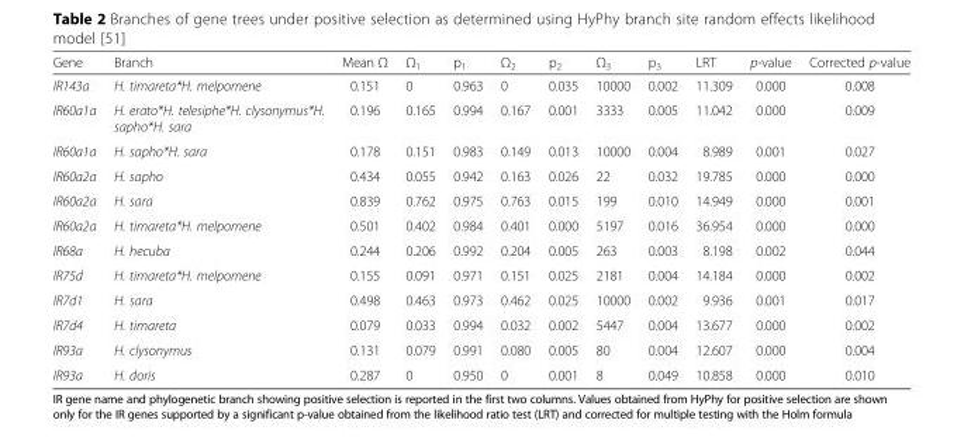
<table><thead><tr><td>Gene</td><td>Branch</td><td>Mean Ω</td><td>Ω<sub>1</sub></td><td>p<sub>1</sub></td><td>Ω<sub>2</sub></td><td>p<sub>2</sub></td><td>Ω<sub>3</sub></td><td>p<sub>3</sub></td><td>LRT</td><td>p-value</td><td>Corrected p-value</td></tr></thead><tbody><tr><td>IR143a</td><td>H. timareta*H. melpomene</td><td>0.151</td><td>0</td><td>0.963</td><td>0</td><td>0.035</td><td>10000</td><td>0.002</td><td>11.309</td><td>0.000</td><td>0.008</td></tr><tr><td>IR60a1a</td><td>H. erato*H. telesiphe*H. clysonymus*H. sapho*H. sara</td><td>0.196</td><td>0.165</td><td>0.994</td><td>0.167</td><td>0.001</td><td>3333</td><td>0.005</td><td>11.042</td><td>0.000</td><td>0.009</td></tr><tr><td>IR60a1a</td><td>H. sapho*H. sara</td><td>0.178</td><td>0.151</td><td>0.983</td><td>0.149</td><td>0.013</td><td>10000</td><td>0.004</td><td>8.989</td><td>0.001</td><td>0.027</td></tr><tr><td>IR60a2a</td><td>H. sapho</td><td>0.434</td><td>0.055</td><td>0.942</td><td>0.163</td><td>0.026</td><td>22</td><td>0.032</td><td>19.785</td><td>0.000</td><td>0.000</td></tr><tr><td>IR60a2a</td><td>H. sara</td><td>0.839</td><td>0.762</td><td>0.975</td><td>0.763</td><td>0.015</td><td>199</td><td>0.010</td><td>14.949</td><td>0.000</td><td>0.001</td></tr><tr><td>IR60a2a</td><td>H. timareta*H. melpomene</td><td>0.501</td><td>0.402</td><td>0.984</td><td>0.401</td><td>0.000</td><td>5197</td><td>0.016</td><td>36.954</td><td>0.000</td><td>0.000</td></tr><tr><td>IR68a</td><td>H. hecuba</td><td>0.244</td><td>0.206</td><td>0.992</td><td>0.204</td><td>0.005</td><td>263</td><td>0.003</td><td>8.198</td><td>0.002</td><td>0.044</td></tr><tr><td>IR75d</td><td>H. timareta*H. melpomene</td><td>0.155</td><td>0.091</td><td>0.971</td><td>0.151</td><td>0.025</td><td>2181</td><td>0.004</td><td>14.184</td><td>0.000</td><td>0.002</td></tr><tr><td>IR7d1</td><td>H. sara</td><td>0.498</td><td>0.463</td><td>0.973</td><td>0.462</td><td>0.025</td><td>10000</td><td>0.002</td><td>9.936</td><td>0.001</td><td>0.017</td></tr><tr><td>IR7d4</td><td>H. timareta</td><td>0.079</td><td>0.033</td><td>0.994</td><td>0.032</td><td>0.002</td><td>5447</td><td>0.004</td><td>13.677</td><td>0.000</td><td>0.002</td></tr><tr><td>IR93a</td><td>H. clysonymus</td><td>0.131</td><td>0.079</td><td>0.991</td><td>0.080</td><td>0.005</td><td>80</td><td>0.004</td><td>12.607</td><td>0.000</td><td>0.004</td></tr><tr><td>IR93a</td><td>H. doris</td><td>0.287</td><td>0</td><td>0.950</td><td>0</td><td>0.001</td><td>8</td><td>0.049</td><td>10.858</td><td>0.000</td><td>0.010</td></tr></tbody></table>